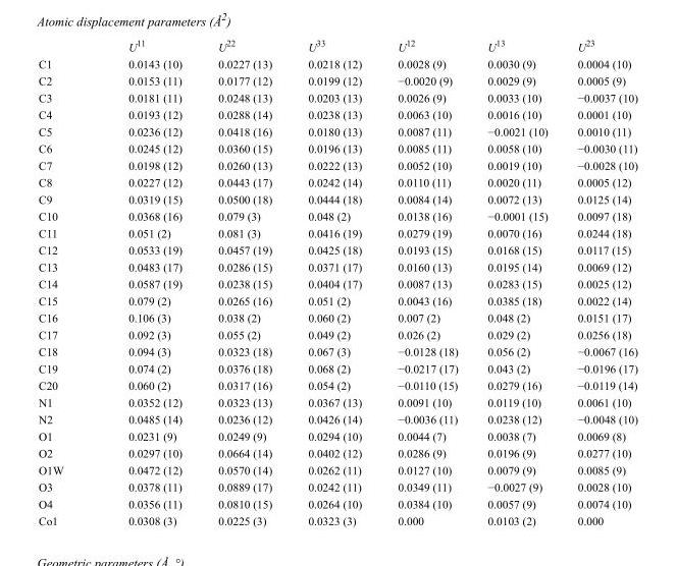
<table><thead><tr><td></td><td>U<sup>11</sup></td><td>U<sup>22</sup></td><td>U<sup>33</sup></td><td>U<sup>12</sup></td><td>U<sup>13</sup></td><td>U<sup>23</sup></td></tr></thead><tbody><tr><td>C1</td><td>0.0143 (10)</td><td>0.0227 (13)</td><td>0.0218 (12)</td><td>0.0028 (9)</td><td>0.0030 (9)</td><td>0.0004 (10)</td></tr><tr><td>C2</td><td>0.0153 (11)</td><td>0.0177 (12)</td><td>0.0199 (12)</td><td>−0.0020 (9)</td><td>0.0029 (9)</td><td>0.0005 (9)</td></tr><tr><td>C3</td><td>0.0181 (11)</td><td>0.0248 (13)</td><td>0.0203 (13)</td><td>0.0026 (9)</td><td>0.0033 (10)</td><td>−0.0037 (10)</td></tr><tr><td>C4</td><td>0.0193 (12)</td><td>0.0288 (14)</td><td>0.0238 (13)</td><td>0.0063 (10)</td><td>0.0016 (10)</td><td>0.0001 (10)</td></tr><tr><td>C5</td><td>0.0236 (12)</td><td>0.0418 (16)</td><td>0.0180 (13)</td><td>0.0087 (11)</td><td>−0.0021 (10)</td><td>0.0010 (11)</td></tr><tr><td>C6</td><td>0.0245 (12)</td><td>0.0360 (15)</td><td>0.0196 (13)</td><td>0.0085 (11)</td><td>0.0058 (10)</td><td>−0.0030 (11)</td></tr><tr><td>C7</td><td>0.0198 (12)</td><td>0.0260 (13)</td><td>0.0222 (13)</td><td>0.0052 (10)</td><td>0.0019 (10)</td><td>−0.0028 (10)</td></tr><tr><td>C8</td><td>0.0227 (12)</td><td>0.0443 (17)</td><td>0.0242 (14)</td><td>0.0110 (11)</td><td>0.0020 (11)</td><td>0.0005 (12)</td></tr><tr><td>C9</td><td>0.0319 (15)</td><td>0.0500 (18)</td><td>0.0444 (18)</td><td>0.0084 (14)</td><td>0.0072 (13)</td><td>0.0125 (14)</td></tr><tr><td>C10</td><td>0.0368 (16)</td><td>0.079 (3)</td><td>0.048 (2)</td><td>0.0138 (16)</td><td>−0.0001 (15)</td><td>0.0097 (18)</td></tr><tr><td>C11</td><td>0.051 (2)</td><td>0.081 (3)</td><td>0.0416 (19)</td><td>0.0279 (19)</td><td>0.0070 (16)</td><td>0.0244 (18)</td></tr><tr><td>C12</td><td>0.0533 (19)</td><td>0.0457 (19)</td><td>0.0425 (18)</td><td>0.0193 (15)</td><td>0.0168 (15)</td><td>0.0117 (15)</td></tr><tr><td>C13</td><td>0.0483 (17)</td><td>0.0286 (15)</td><td>0.0371 (17)</td><td>0.0160 (13)</td><td>0.0195 (14)</td><td>0.0069 (12)</td></tr><tr><td>C14</td><td>0.0587 (19)</td><td>0.0238 (15)</td><td>0.0404 (17)</td><td>0.0087 (13)</td><td>0.0283 (15)</td><td>0.0025 (12)</td></tr><tr><td>C15</td><td>0.079 (2)</td><td>0.0265 (16)</td><td>0.051 (2)</td><td>0.0043 (16)</td><td>0.0385 (18)</td><td>0.0022 (14)</td></tr><tr><td>C16</td><td>0.106 (3)</td><td>0.038 (2)</td><td>0.060 (2)</td><td>0.007 (2)</td><td>0.048 (2)</td><td>0.0151 (17)</td></tr><tr><td>C17</td><td>0.092 (3)</td><td>0.055 (2)</td><td>0.049 (2)</td><td>0.026 (2)</td><td>0.029 (2)</td><td>0.0256 (18)</td></tr><tr><td>C18</td><td>0.094 (3)</td><td>0.0323 (18)</td><td>0.067 (3)</td><td>−0.0128 (18)</td><td>0.056 (2)</td><td>−0.0067 (16)</td></tr><tr><td>C19</td><td>0.074 (2)</td><td>0.0376 (18)</td><td>0.068 (2)</td><td>−0.0217 (17)</td><td>0.043 (2)</td><td>−0.0196 (17)</td></tr><tr><td>C20</td><td>0.060 (2)</td><td>0.0317 (16)</td><td>0.054 (2)</td><td>−0.0110 (15)</td><td>0.0279 (16)</td><td>−0.0119 (14)</td></tr><tr><td>N1</td><td>0.0352 (12)</td><td>0.0323 (13)</td><td>0.0367 (13)</td><td>0.0091 (10)</td><td>0.0119 (10)</td><td>0.0061 (10)</td></tr><tr><td>N2</td><td>0.0485 (14)</td><td>0.0236 (12)</td><td>0.0426 (14)</td><td>−0.0036 (11)</td><td>0.0238 (12)</td><td>−0.0048 (10)</td></tr><tr><td>O1</td><td>0.0231 (9)</td><td>0.0249 (9)</td><td>0.0294 (10)</td><td>0.0044 (7)</td><td>0.0038 (7)</td><td>0.0069 (8)</td></tr><tr><td>O2</td><td>0.0297 (10)</td><td>0.0664 (14)</td><td>0.0402 (12)</td><td>0.0286 (9)</td><td>0.0196 (9)</td><td>0.0277 (10)</td></tr><tr><td>O1W</td><td>0.0472 (12)</td><td>0.0570 (14)</td><td>0.0262 (11)</td><td>0.0127 (10)</td><td>0.0079 (9)</td><td>0.0085 (9)</td></tr><tr><td>O3</td><td>0.0378 (11)</td><td>0.0889 (17)</td><td>0.0242 (11)</td><td>0.0349 (11)</td><td>−0.0027 (9)</td><td>0.0028 (10)</td></tr><tr><td>O4</td><td>0.0356 (11)</td><td>0.0810 (15)</td><td>0.0264 (10)</td><td>0.0384 (10)</td><td>0.0057 (9)</td><td>0.0074 (10)</td></tr><tr><td>Co1</td><td>0.0308 (3)</td><td>0.0225 (3)</td><td>0.0323 (3)</td><td>0.000</td><td>0.0103 (2)</td><td>0.000</td></tr></tbody></table>